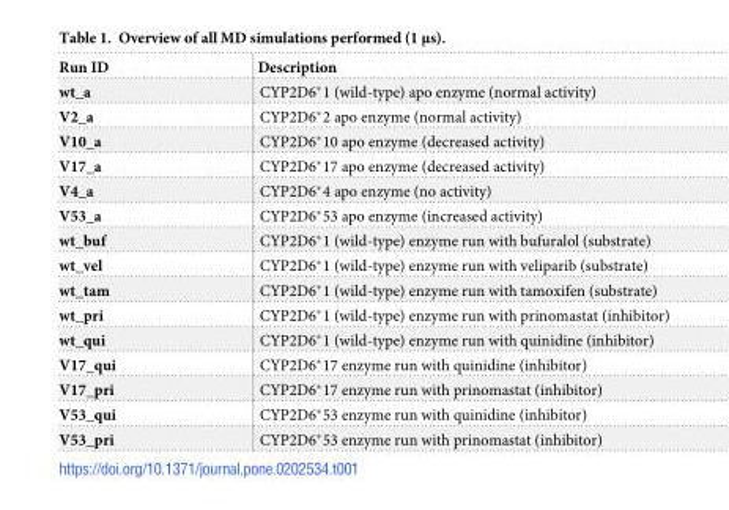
<table><thead><tr><td>Run ID</td><td>Description</td></tr></thead><tbody><tr><td>wt_a</td><td>CYP2D6*1 (wild-type) apo enzyme (normal activity)</td></tr><tr><td>V2_a</td><td>CYP2D6*2 apo enzyme (normal activity)</td></tr><tr><td>V10_a</td><td>CYP2D6*10 apo enzyme (decreased activity)</td></tr><tr><td>V17_a</td><td>CYP2D6*17 apo enzyme (decreased activity)</td></tr><tr><td>V4_a</td><td>CYP2D6*4 apo enzyme (no activity)</td></tr><tr><td>V53_a</td><td>CYP2D6*53 apo enzyme (increased activity)</td></tr><tr><td>wt_buf</td><td>CYP2D6*1 (wild-type) enzyme run with bufuralol (substrate)</td></tr><tr><td>wt_vel</td><td>CYP2D6*1 (wild-type) enzyme run with veliparib (substrate)</td></tr><tr><td>wt_tam</td><td>CYP2D6*1 (wild-type) enzyme run with tamoxifen (substrate)</td></tr><tr><td>wt_pri</td><td>CYP2D6*1 (wild-type) enzyme run with prinomastat (inhibitor)</td></tr><tr><td>wt_qui</td><td>CYP2D6*1 (wild-type) enzyme run with quinidine (inhibitor)</td></tr><tr><td>V17_qui</td><td>CYP2D6*17 enzyme run with quinidine (inhibitor)</td></tr><tr><td>V17_pri</td><td>CYP2D6*17 enzyme run with prinomastat (inhibitor)</td></tr><tr><td>V53_qui</td><td>CYP2D6*53 enzyme run with quinidine (inhibitor)</td></tr><tr><td>V53_pri</td><td>CYP2D6*53 enzyme run with prinomastat (inhibitor)</td></tr></tbody></table>